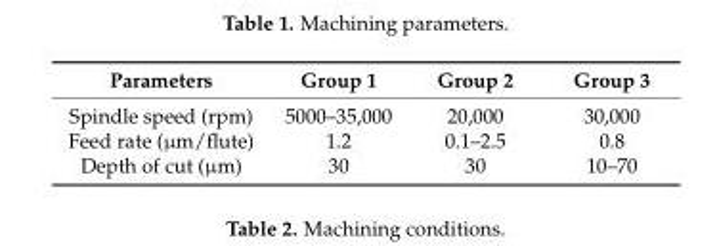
<table><thead><tr><td>Parameters</td><td>Group 1</td><td>Group 2</td><td>Group 3</td></tr></thead><tbody><tr><td>Spindle speed (rpm)</td><td>5000–35,000</td><td>20,000</td><td>30,000</td></tr><tr><td>Feed rate (µm/flute)</td><td>1.2</td><td>0.1–2.5</td><td>0.8</td></tr><tr><td>Depth of cut (µm)</td><td>30</td><td>30</td><td>10–70</td></tr></tbody></table>